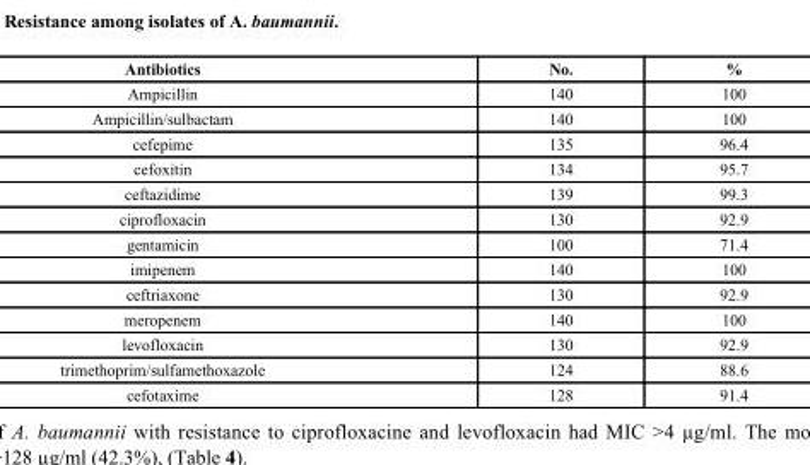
<table><thead><tr><td>Antibiotics</td><td>No.</td><td>%</td></tr></thead><tbody><tr><td>Ampicillin</td><td>140</td><td>100</td></tr><tr><td>Ampicillin/sulbactam</td><td>140</td><td>100</td></tr><tr><td>cefepime</td><td>135</td><td>96.4</td></tr><tr><td>cefoxitin</td><td>134</td><td>95.7</td></tr><tr><td>ceftazidime</td><td>139</td><td>99.3</td></tr><tr><td>ciprofloxacin</td><td>130</td><td>92.9</td></tr><tr><td>gentamicin</td><td>100</td><td>71.4</td></tr><tr><td>imipenem</td><td>140</td><td>100</td></tr><tr><td>ceftriaxone</td><td>130</td><td>92.9</td></tr><tr><td>meropenem</td><td>140</td><td>100</td></tr><tr><td>levofloxacin</td><td>130</td><td>92.9</td></tr><tr><td>trimethoprim/sulfamethoxazole</td><td>124</td><td>88.6</td></tr><tr><td>cefotaxime</td><td>128</td><td>91.4</td></tr></tbody></table>